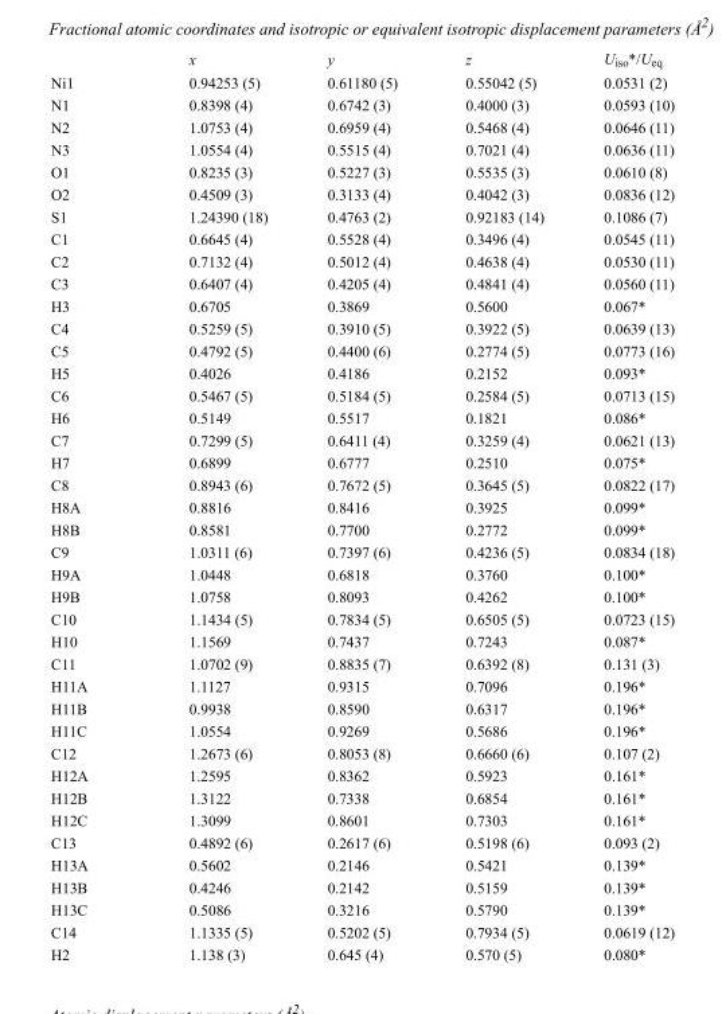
<table><thead><tr><td></td><td>x</td><td>y</td><td>z</td><td>U<sub>iso</sub>*/U<sub>eq</sub></td></tr></thead><tbody><tr><td>Ni1</td><td>0.94253 (5)</td><td>0.61180 (5)</td><td>0.55042 (5)</td><td>0.0531 (2)</td></tr><tr><td>N1</td><td>0.8398 (4)</td><td>0.6742 (3)</td><td>0.4000 (3)</td><td>0.0593 (10)</td></tr><tr><td>N2</td><td>1.0753 (4)</td><td>0.6959 (4)</td><td>0.5468 (4)</td><td>0.0646 (11)</td></tr><tr><td>N3</td><td>1.0554 (4)</td><td>0.5515 (4)</td><td>0.7021 (4)</td><td>0.0636 (11)</td></tr><tr><td>O1</td><td>0.8235 (3)</td><td>0.5227 (3)</td><td>0.5535 (3)</td><td>0.0610 (8)</td></tr><tr><td>O2</td><td>0.4509 (3)</td><td>0.3133 (4)</td><td>0.4042 (3)</td><td>0.0836 (12)</td></tr><tr><td>S1</td><td>1.24390 (18)</td><td>0.4763 (2)</td><td>0.92183 (14)</td><td>0.1086 (7)</td></tr><tr><td>C1</td><td>0.6645 (4)</td><td>0.5528 (4)</td><td>0.3496 (4)</td><td>0.0545 (11)</td></tr><tr><td>C2</td><td>0.7132 (4)</td><td>0.5012 (4)</td><td>0.4638 (4)</td><td>0.0530 (11)</td></tr><tr><td>C3</td><td>0.6407 (4)</td><td>0.4205 (4)</td><td>0.4841 (4)</td><td>0.0560 (11)</td></tr><tr><td>H3</td><td>0.6705</td><td>0.3869</td><td>0.5600</td><td>0.067*</td></tr><tr><td>C4</td><td>0.5259 (5)</td><td>0.3910 (5)</td><td>0.3922 (5)</td><td>0.0639 (13)</td></tr><tr><td>C5</td><td>0.4792 (5)</td><td>0.4400 (6)</td><td>0.2774 (5)</td><td>0.0773 (16)</td></tr><tr><td>H5</td><td>0.4026</td><td>0.4186</td><td>0.2152</td><td>0.093*</td></tr><tr><td>C6</td><td>0.5467 (5)</td><td>0.5184 (5)</td><td>0.2584 (5)</td><td>0.0713 (15)</td></tr><tr><td>H6</td><td>0.5149</td><td>0.5517</td><td>0.1821</td><td>0.086*</td></tr><tr><td>C7</td><td>0.7299 (5)</td><td>0.6411 (4)</td><td>0.3259 (4)</td><td>0.0621 (13)</td></tr><tr><td>H7</td><td>0.6899</td><td>0.6777</td><td>0.2510</td><td>0.075*</td></tr><tr><td>C8</td><td>0.8943 (6)</td><td>0.7672 (5)</td><td>0.3645 (5)</td><td>0.0822 (17)</td></tr><tr><td>H8A</td><td>0.8816</td><td>0.8416</td><td>0.3925</td><td>0.099*</td></tr><tr><td>H8B</td><td>0.8581</td><td>0.7700</td><td>0.2772</td><td>0.099*</td></tr><tr><td>C9</td><td>1.0311 (6)</td><td>0.7397 (6)</td><td>0.4236 (5)</td><td>0.0834 (18)</td></tr><tr><td>H9A</td><td>1.0448</td><td>0.6818</td><td>0.3760</td><td>0.100*</td></tr><tr><td>H9B</td><td>1.0758</td><td>0.8093</td><td>0.4262</td><td>0.100*</td></tr><tr><td>C10</td><td>1.1434 (5)</td><td>0.7834 (5)</td><td>0.6505 (5)</td><td>0.0723 (15)</td></tr><tr><td>H10</td><td>1.1569</td><td>0.7437</td><td>0.7243</td><td>0.087*</td></tr><tr><td>C11</td><td>1.0702 (9)</td><td>0.8835 (7)</td><td>0.6392 (8)</td><td>0.131 (3)</td></tr><tr><td>H11A</td><td>1.1127</td><td>0.9315</td><td>0.7096</td><td>0.196*</td></tr><tr><td>H11B</td><td>0.9938</td><td>0.8590</td><td>0.6317</td><td>0.196*</td></tr><tr><td>H11C</td><td>1.0554</td><td>0.9269</td><td>0.5686</td><td>0.196*</td></tr><tr><td>C12</td><td>1.2673 (6)</td><td>0.8053 (8)</td><td>0.6660 (6)</td><td>0.107 (2)</td></tr><tr><td>H12A</td><td>1.2595</td><td>0.8362</td><td>0.5923</td><td>0.161*</td></tr><tr><td>H12B</td><td>1.3122</td><td>0.7338</td><td>0.6854</td><td>0.161*</td></tr><tr><td>H12C</td><td>1.3099</td><td>0.8601</td><td>0.7303</td><td>0.161*</td></tr><tr><td>C13</td><td>0.4892 (6)</td><td>0.2617 (6)</td><td>0.5198 (6)</td><td>0.093 (2)</td></tr><tr><td>H13A</td><td>0.5602</td><td>0.2146</td><td>0.5421</td><td>0.139*</td></tr><tr><td>H13B</td><td>0.4246</td><td>0.2142</td><td>0.5159</td><td>0.139*</td></tr><tr><td>H13C</td><td>0.5086</td><td>0.3216</td><td>0.5790</td><td>0.139*</td></tr><tr><td>C14</td><td>1.1335 (5)</td><td>0.5202 (5)</td><td>0.7934 (5)</td><td>0.0619 (12)</td></tr><tr><td>H2</td><td>1.138 (3)</td><td>0.645 (4)</td><td>0.570 (5)</td><td>0.080*</td></tr></tbody></table>